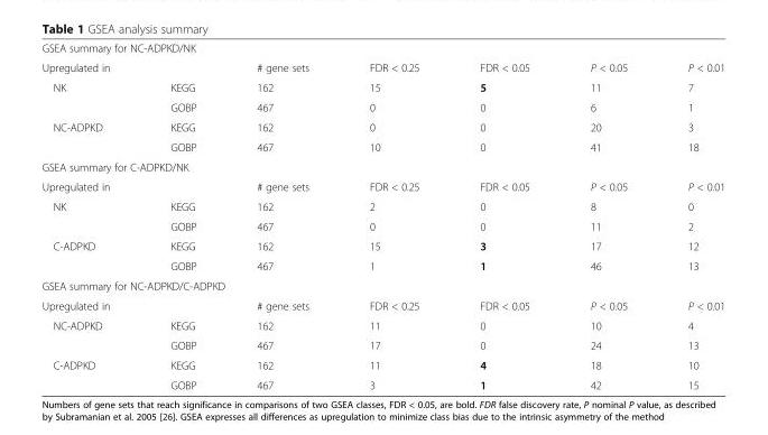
<table><tbody><tr><td colspan="7">GSEA summary for NC-ADPKD/NK</td></tr><tr><td>Upregulated in</td><td></td><td># gene sets</td><td>FDR &lt; 0.25</td><td>FDR &lt; 0.05</td><td>P &lt; 0.05</td><td>P &lt; 0.01</td></tr><tr><td rowspan="2">NK</td><td>KEGG</td><td>162</td><td>15</td><td>5</td><td>11</td><td>7</td></tr><tr><td>GOBP</td><td>467</td><td>0</td><td>0</td><td>6</td><td>1</td></tr><tr><td rowspan="2">NC-ADPKD</td><td>KEGG</td><td>162</td><td>0</td><td>0</td><td>20</td><td>3</td></tr><tr><td>GOBP</td><td>467</td><td>10</td><td>0</td><td>41</td><td>18</td></tr><tr><td colspan="7">GSEA summary for C-ADPKD/NK</td></tr><tr><td>Upregulated in</td><td></td><td># gene sets</td><td>FDR &lt; 0.25</td><td>FDR &lt; 0.05</td><td>P &lt; 0.05</td><td>P &lt; 0.01</td></tr><tr><td rowspan="2">NK</td><td>KEGG</td><td>162</td><td>2</td><td>0</td><td>8</td><td>0</td></tr><tr><td>GOBP</td><td>467</td><td>0</td><td>0</td><td>11</td><td>2</td></tr><tr><td rowspan="2">C-ADPKD</td><td>KEGG</td><td>162</td><td>15</td><td>3</td><td>17</td><td>12</td></tr><tr><td>GOBP</td><td>467</td><td>1</td><td>1</td><td>46</td><td>13</td></tr><tr><td colspan="7">GSEA summary for NC-ADPKD/C-ADPKD</td></tr><tr><td>Upregulated in</td><td></td><td># gene sets</td><td>FDR &lt; 0.25</td><td>FDR &lt; 0.05</td><td>P &lt; 0.05</td><td>P &lt; 0.01</td></tr><tr><td rowspan="2">NC-ADPKD</td><td>KEGG</td><td>162</td><td>11</td><td>0</td><td>10</td><td>4</td></tr><tr><td>GOBP</td><td>467</td><td>17</td><td>0</td><td>24</td><td>13</td></tr><tr><td rowspan="2">C-ADPKD</td><td>KEGG</td><td>162</td><td>11</td><td>4</td><td>18</td><td>10</td></tr><tr><td>GOBP</td><td>467</td><td>3</td><td>1</td><td>42</td><td>15</td></tr></tbody></table>